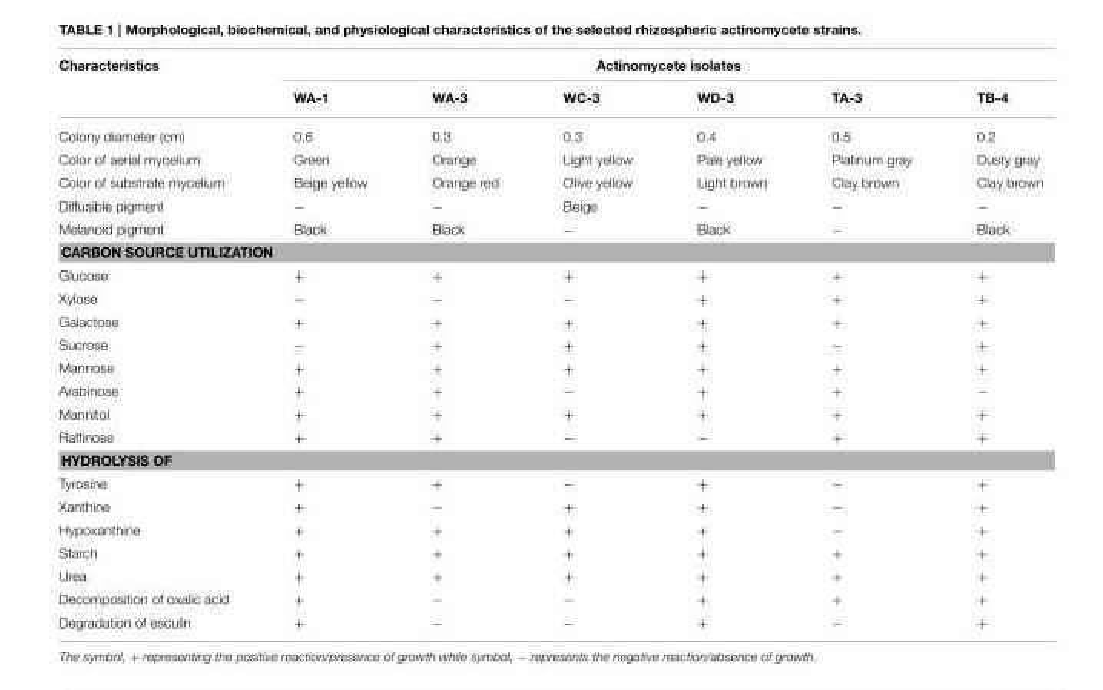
<table><thead><tr><td rowspan="2">Characteristics</td><td colspan="6">Actinomycete isolates</td></tr><tr><td>WA-1</td><td>WA-3</td><td>WC-3</td><td>WD-3</td><td>TA-3</td><td>TB-4</td></tr></thead><tbody><tr><td>Colony diameter (cm)</td><td>0.6</td><td>0.3</td><td>0.3</td><td>0.4</td><td>0.5</td><td>0.2</td></tr><tr><td>Color of aerial mycelium</td><td>Green</td><td>Orange</td><td>Light yellow</td><td>Pale yellow</td><td>Platinum gray</td><td>Dusty gray</td></tr><tr><td>Color of substrate mycelium</td><td>Beige yellow</td><td>Orange red</td><td>Olive yellow</td><td>Light brown</td><td>Clay brown</td><td>Clay brown</td></tr><tr><td>Diffusible pigment</td><td>−</td><td>−</td><td>Beige</td><td>−</td><td>−</td><td>−</td></tr><tr><td>Melanoid pigment</td><td>Black</td><td>Black</td><td>−</td><td>Black</td><td>−</td><td>Black</td></tr><tr><td colspan="7">CARBON SOURCE UTILIZATION</td></tr><tr><td>Glucose</td><td>+</td><td>+</td><td>+</td><td>+</td><td>+</td><td>+</td></tr><tr><td>Xylose</td><td>−</td><td>−</td><td>−</td><td>+</td><td>+</td><td>+</td></tr><tr><td>Galactose</td><td>+</td><td>+</td><td>+</td><td>+</td><td>+</td><td>+</td></tr><tr><td>Sucrose</td><td>−</td><td>+</td><td>+</td><td>+</td><td>−</td><td>+</td></tr><tr><td>Mannose</td><td>+</td><td>+</td><td>+</td><td>+</td><td>+</td><td>+</td></tr><tr><td>Arabinose</td><td>+</td><td>+</td><td>−</td><td>+</td><td>+</td><td>−</td></tr><tr><td>Mannitol</td><td>+</td><td>+</td><td>+</td><td>+</td><td>+</td><td>+</td></tr><tr><td>Raffinose</td><td>+</td><td>+</td><td>−</td><td>−</td><td>+</td><td>+</td></tr><tr><td colspan="7">HYDROLYSIS OF</td></tr><tr><td>Tyrosine</td><td>+</td><td>+</td><td>−</td><td>+</td><td>−</td><td>+</td></tr><tr><td>Xanthine</td><td>+</td><td>−</td><td>+</td><td>+</td><td>−</td><td>+</td></tr><tr><td>Hypoxanthine</td><td>+</td><td>+</td><td>+</td><td>+</td><td>−</td><td>+</td></tr><tr><td>Starch</td><td>+</td><td>+</td><td>+</td><td>+</td><td>+</td><td>+</td></tr><tr><td>Urea</td><td>+</td><td>+</td><td>+</td><td>+</td><td>+</td><td>+</td></tr><tr><td>Decomposition of oxalic acid</td><td>+</td><td>−</td><td>−</td><td>+</td><td>+</td><td>+</td></tr><tr><td>Degradation of esculin</td><td>+</td><td>−</td><td>−</td><td>+</td><td>−</td><td>+</td></tr></tbody></table>